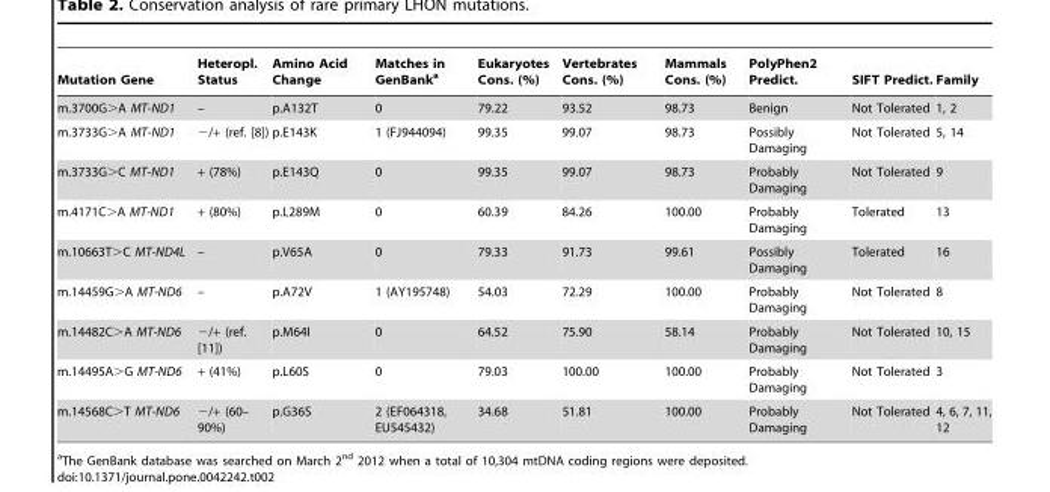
<table><thead><tr><td>Mutation Gene</td><td>Heteropl. Status</td><td>Amino Acid Change</td><td>Matches in GenBank<sup>a</sup></td><td>Eukaryotes Cons. (%)</td><td>Vertebrates Cons. (%)</td><td>Mammals Cons. (%)</td><td>PolyPhen2 Predict.</td><td>SIFT Predict.</td><td>Family</td></tr></thead><tbody><tr><td>m.3700G&gt;A MT-ND1</td><td>–</td><td>p.A132T</td><td>0</td><td>79.22</td><td>93.52</td><td>98.73</td><td>Benign</td><td>Not Tolerated</td><td>1, 2</td></tr><tr><td>m.3733G&gt;A MT-ND1</td><td>−/+ (ref. [8])</td><td>p.E143K</td><td>1 (FJ944094)</td><td>99.35</td><td>99.07</td><td>98.73</td><td>Possibly Damaging</td><td>Not Tolerated</td><td>5, 14</td></tr><tr><td>m.3733G&gt;C MT-ND1</td><td>+ (78%)</td><td>p.E143Q</td><td>0</td><td>99.35</td><td>99.07</td><td>98.73</td><td>Probably Damaging</td><td>Not Tolerated</td><td>9</td></tr><tr><td>m.4171C&gt;A MT-ND1</td><td>+ (80%)</td><td>p.L289M</td><td>0</td><td>60.39</td><td>84.26</td><td>100.00</td><td>Probably Damaging</td><td>Tolerated</td><td>13</td></tr><tr><td>m.10663T&gt;C MT-ND4L</td><td>–</td><td>p.V65A</td><td>0</td><td>79.33</td><td>91.73</td><td>99.61</td><td>Possibly Damaging</td><td>Tolerated</td><td>16</td></tr><tr><td>m.14459G&gt;A MT-ND6</td><td>–</td><td>p.A72V</td><td>1 (AY195748)</td><td>54.03</td><td>72.29</td><td>100.00</td><td>Probably Damaging</td><td>Not Tolerated</td><td>8</td></tr><tr><td>m.14482C&gt;A MT-ND6</td><td>−/+ (ref. [11])</td><td>p.M64I</td><td>0</td><td>64.52</td><td>75.90</td><td>58.14</td><td>Probably Damaging</td><td>Not Tolerated</td><td>10, 15</td></tr><tr><td>m.14495A&gt;G MT-ND6</td><td>+ (41%)</td><td>p.L60S</td><td>0</td><td>79.03</td><td>100.00</td><td>100.00</td><td>Probably Damaging</td><td>Not Tolerated</td><td>3</td></tr><tr><td>m.14568C&gt;T MT-ND6</td><td>−/+ (60– 90%)</td><td>p.G36S</td><td>2 (EF064318, EU545432)</td><td>34.68</td><td>51.81</td><td>100.00</td><td>Probably Damaging</td><td>Not Tolerated</td><td>4, 6, 7, 11, 12</td></tr></tbody></table>